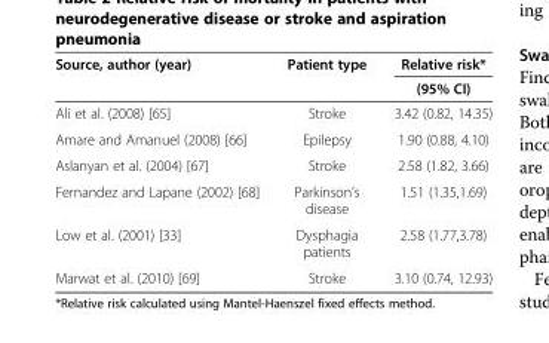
<table><thead><tr><td rowspan="2">Source, author (year)</td><td rowspan="2">Patient type</td><td rowspan="2">Relative risk* (95% CI)</td></tr><tr></tr></thead><tbody><tr><td>Ali et al. (2008) [65]</td><td>Stroke</td><td>3.42 (0.82, 14.35)</td></tr><tr><td>Amare and Amanuel (2008) [66]</td><td>Epilepsy</td><td>1.90 (0.88, 4.10)</td></tr><tr><td>Aslanyan et al. (2004) [67]</td><td>Stroke</td><td>2.58 (1.82, 3.66)</td></tr><tr><td>Fernandez and Lapane (2002) [68]</td><td>Parkinson’s disease</td><td>1.51 (1.35,1.69)</td></tr><tr><td>Low et al. (2001) [33]</td><td>Dysphagia patients</td><td>2.58 (1.77,3.78)</td></tr><tr><td>Marwat et al. (2010) [69]</td><td>Stroke</td><td>3.10 (0.74, 12.93)</td></tr></tbody></table>